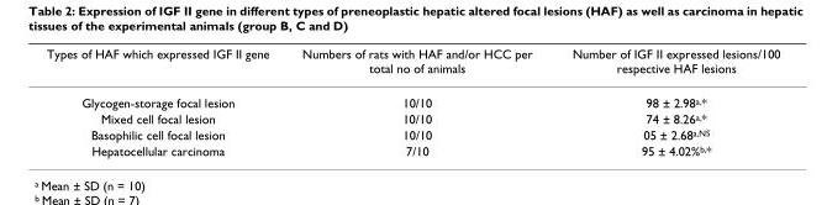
<table><thead><tr><td>Types of HAF which expressed IGF II gene</td><td>Numbers of rats with HAF and/or HCC per total no of animals</td><td>Number of IGF II expressed lesions/100 respective HAF lesions</td></tr></thead><tbody><tr><td>Glycogen-storage focal lesion</td><td>10/10</td><td>98 ± 2.98<sup>a,</sup>*</td></tr><tr><td>Mixed cell focal lesion</td><td>10/10</td><td>74 ± 8.26<sup>a,</sup>*</td></tr><tr><td>Basophilic cell focal lesion</td><td>10/10</td><td>05 ± 2.68<sup>a,NS</sup></td></tr><tr><td>Hepatocellular carcinoma</td><td>7/10</td><td>95 ± 4.02%<sup>b,</sup>*</td></tr></tbody></table>